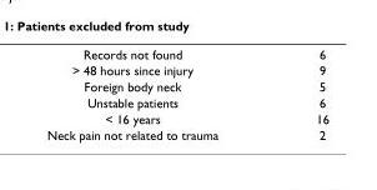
<table><tbody><tr><td>Records not found</td><td>6</td></tr><tr><td>&gt; 48 hours since injury</td><td>9</td></tr><tr><td>Foreign body neck</td><td>5</td></tr><tr><td>Unstable patients</td><td>6</td></tr><tr><td>&lt; 16 years</td><td>16</td></tr><tr><td>Neck pain not related to trauma</td><td>2</td></tr></tbody></table>